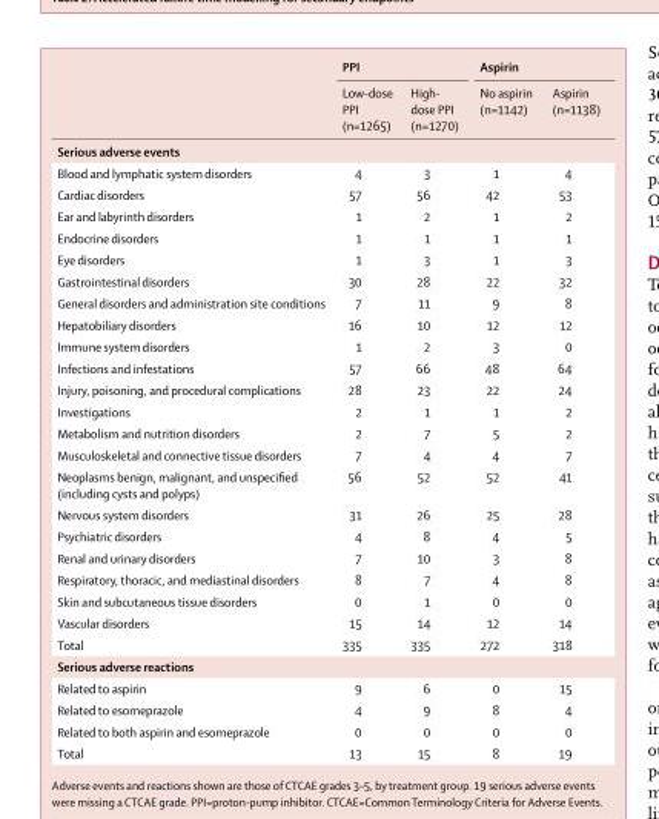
<table><thead><tr><td rowspan="2"></td><td colspan="2">PPI</td><td colspan="2">Aspirin</td></tr><tr><td>Low-dose PPI (n=1265)</td><td>High- dose PPI (n=1270)</td><td>No aspirin (n=1142)</td><td>Aspirin (n=1138)</td></tr></thead><tbody><tr><td colspan="5">Serious adverse events</td></tr><tr><td>Blood and lymphatic system disorders</td><td>4</td><td>3</td><td>1</td><td>4</td></tr><tr><td>Cardiac disorders</td><td>57</td><td>56</td><td>42</td><td>53</td></tr><tr><td>Ear and labyrinth disorders</td><td>1</td><td>2</td><td>1</td><td>2</td></tr><tr><td>Endocrine disorders</td><td>1</td><td>1</td><td>1</td><td>1</td></tr><tr><td>Eye disorders</td><td>1</td><td>3</td><td>1</td><td>3</td></tr><tr><td>Gastrointestinal disorders</td><td>30</td><td>28</td><td>22</td><td>32</td></tr><tr><td>General disorders and administration site conditions</td><td>7</td><td>11</td><td>9</td><td>8</td></tr><tr><td>Hepatobiliary disorders</td><td>16</td><td>10</td><td>12</td><td>12</td></tr><tr><td>Immune system disorders</td><td>1</td><td>2</td><td>3</td><td>0</td></tr><tr><td>Infections and infestations</td><td>57</td><td>66</td><td>48</td><td>64</td></tr><tr><td>Injury, poisoning, and procedural complications</td><td>28</td><td>23</td><td>22</td><td>24</td></tr><tr><td>Investigations</td><td>2</td><td>1</td><td>1</td><td>2</td></tr><tr><td>Metabolism and nutrition disorders</td><td>2</td><td>7</td><td>5</td><td>2</td></tr><tr><td>Musculoskeletal and connective tissue disorders</td><td>7</td><td>4</td><td>4</td><td>7</td></tr><tr><td>Neoplasms benign, malignant, and unspecified (including cysts and polyps)</td><td>56</td><td>52</td><td>52</td><td>41</td></tr><tr><td>Nervous system disorders</td><td>31</td><td>26</td><td>25</td><td>28</td></tr><tr><td>Psychiatric disorders</td><td>4</td><td>8</td><td>4</td><td>5</td></tr><tr><td>Renal and urinary disorders</td><td>7</td><td>10</td><td>3</td><td>8</td></tr><tr><td>Respiratory, thoracic, and mediastinal disorders</td><td>8</td><td>7</td><td>4</td><td>8</td></tr><tr><td>Skin and subcutaneous tissue disorders</td><td>0</td><td>1</td><td>0</td><td>0</td></tr><tr><td>Vascular disorders</td><td>15</td><td>14</td><td>12</td><td>14</td></tr><tr><td>Total</td><td>335</td><td>335</td><td>272</td><td>318</td></tr><tr><td colspan="5">Serious adverse reactions</td></tr><tr><td>Related to aspirin</td><td>9</td><td>6</td><td>0</td><td>15</td></tr><tr><td>Related to esomeprazole</td><td>4</td><td>9</td><td>8</td><td>4</td></tr><tr><td>Related to both aspirin and esomeprazole</td><td>0</td><td>0</td><td>0</td><td>0</td></tr><tr><td>Total</td><td>13</td><td>15</td><td>8</td><td>19</td></tr></tbody></table>